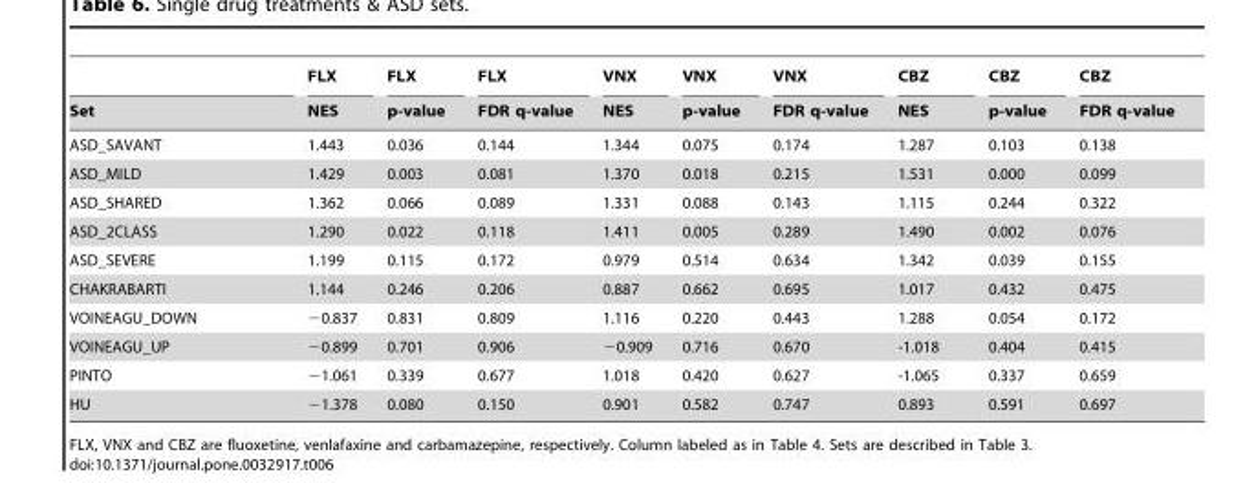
<table><thead><tr><td rowspan="2">Set</td><td rowspan="2">FLX NES</td><td rowspan="2">FLX p-value</td><td rowspan="2">FLX FDR q-value</td><td rowspan="2">VNX NES</td><td rowspan="2">VNX p-value</td><td rowspan="2">VNX FDR q-value</td><td rowspan="2">CBZ NES</td><td rowspan="2">CBZ p-value</td><td rowspan="2">CBZ FDR q-value</td></tr><tr></tr></thead><tbody><tr><td>ASD_SAVANT</td><td>1.443</td><td>0.036</td><td>0.144</td><td>1.344</td><td>0.075</td><td>0.174</td><td>1.287</td><td>0.103</td><td>0.138</td></tr><tr><td>ASD_MILD</td><td>1.429</td><td>0.003</td><td>0.081</td><td>1.370</td><td>0.018</td><td>0.215</td><td>1.531</td><td>0.000</td><td>0.099</td></tr><tr><td>ASD_SHARED</td><td>1.362</td><td>0.066</td><td>0.089</td><td>1.331</td><td>0.088</td><td>0.143</td><td>1.115</td><td>0.244</td><td>0.322</td></tr><tr><td>ASD_2CLASS</td><td>1.290</td><td>0.022</td><td>0.118</td><td>1.411</td><td>0.005</td><td>0.289</td><td>1.490</td><td>0.002</td><td>0.076</td></tr><tr><td>ASD_SEVERE</td><td>1.199</td><td>0.115</td><td>0.172</td><td>0.979</td><td>0.514</td><td>0.634</td><td>1.342</td><td>0.039</td><td>0.155</td></tr><tr><td>CHAKRABARTI</td><td>1.144</td><td>0.246</td><td>0.206</td><td>0.887</td><td>0.662</td><td>0.695</td><td>1.017</td><td>0.432</td><td>0.475</td></tr><tr><td>VOINEAGU_DOWN</td><td>−0.837</td><td>0.831</td><td>0.809</td><td>1.116</td><td>0.220</td><td>0.443</td><td>1.288</td><td>0.054</td><td>0.172</td></tr><tr><td>VOINEAGU_UP</td><td>−0.899</td><td>0.701</td><td>0.906</td><td>−0.909</td><td>0.716</td><td>0.670</td><td>-1.018</td><td>0.404</td><td>0.415</td></tr><tr><td>PINTO</td><td>−1.061</td><td>0.339</td><td>0.677</td><td>1.018</td><td>0.420</td><td>0.627</td><td>-1.065</td><td>0.337</td><td>0.659</td></tr><tr><td>HU</td><td>−1.378</td><td>0.080</td><td>0.150</td><td>0.901</td><td>0.582</td><td>0.747</td><td>0.893</td><td>0.591</td><td>0.697</td></tr></tbody></table>